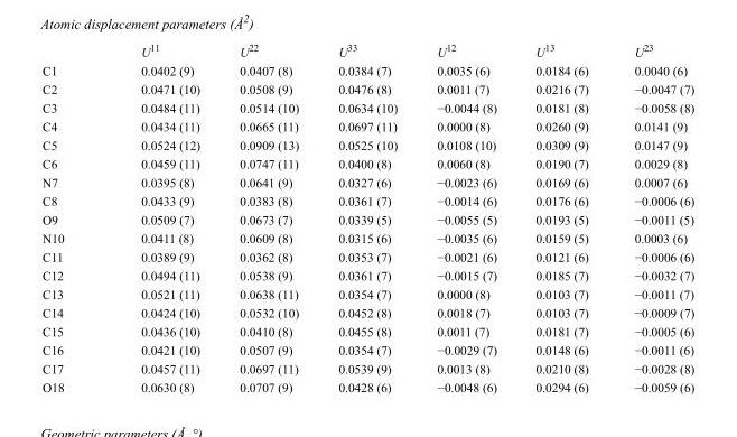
<table><thead><tr><td></td><td>U<sup>11</sup></td><td>U<sup>22</sup></td><td>U<sup>33</sup></td><td>U<sup>12</sup></td><td>U<sup>13</sup></td><td>U<sup>23</sup></td></tr></thead><tbody><tr><td>C1</td><td>0.0402 (9)</td><td>0.0407 (8)</td><td>0.0384 (7)</td><td>0.0035 (6)</td><td>0.0184 (6)</td><td>0.0040 (6)</td></tr><tr><td>C2</td><td>0.0471 (10)</td><td>0.0508 (9)</td><td>0.0476 (8)</td><td>0.0011 (7)</td><td>0.0216 (7)</td><td>−0.0047 (7)</td></tr><tr><td>C3</td><td>0.0484 (11)</td><td>0.0514 (10)</td><td>0.0634 (10)</td><td>−0.0044 (8)</td><td>0.0181 (8)</td><td>−0.0058 (8)</td></tr><tr><td>C4</td><td>0.0434 (11)</td><td>0.0665 (11)</td><td>0.0697 (11)</td><td>0.0000 (8)</td><td>0.0260 (9)</td><td>0.0141 (9)</td></tr><tr><td>C5</td><td>0.0524 (12)</td><td>0.0909 (13)</td><td>0.0525 (10)</td><td>0.0108 (10)</td><td>0.0309 (9)</td><td>0.0147 (9)</td></tr><tr><td>C6</td><td>0.0459 (11)</td><td>0.0747 (11)</td><td>0.0400 (8)</td><td>0.0060 (8)</td><td>0.0190 (7)</td><td>0.0029 (8)</td></tr><tr><td>N7</td><td>0.0395 (8)</td><td>0.0641 (9)</td><td>0.0327 (6)</td><td>−0.0023 (6)</td><td>0.0169 (6)</td><td>0.0007 (6)</td></tr><tr><td>C8</td><td>0.0433 (9)</td><td>0.0383 (8)</td><td>0.0361 (7)</td><td>−0.0014 (6)</td><td>0.0176 (6)</td><td>−0.0006 (6)</td></tr><tr><td>O9</td><td>0.0509 (7)</td><td>0.0673 (7)</td><td>0.0339 (5)</td><td>−0.0055 (5)</td><td>0.0193 (5)</td><td>−0.0011 (5)</td></tr><tr><td>N10</td><td>0.0411 (8)</td><td>0.0609 (8)</td><td>0.0315 (6)</td><td>−0.0035 (6)</td><td>0.0159 (5)</td><td>0.0003 (6)</td></tr><tr><td>C11</td><td>0.0389 (9)</td><td>0.0362 (8)</td><td>0.0353 (7)</td><td>−0.0021 (6)</td><td>0.0121 (6)</td><td>−0.0006 (6)</td></tr><tr><td>C12</td><td>0.0494 (11)</td><td>0.0538 (9)</td><td>0.0361 (7)</td><td>−0.0015 (7)</td><td>0.0185 (7)</td><td>−0.0032 (7)</td></tr><tr><td>C13</td><td>0.0521 (11)</td><td>0.0638 (11)</td><td>0.0354 (7)</td><td>0.0000 (8)</td><td>0.0103 (7)</td><td>−0.0011 (7)</td></tr><tr><td>C14</td><td>0.0424 (10)</td><td>0.0532 (10)</td><td>0.0452 (8)</td><td>0.0018 (7)</td><td>0.0103 (7)</td><td>−0.0009 (7)</td></tr><tr><td>C15</td><td>0.0436 (10)</td><td>0.0410 (8)</td><td>0.0455 (8)</td><td>0.0011 (7)</td><td>0.0181 (7)</td><td>−0.0005 (6)</td></tr><tr><td>C16</td><td>0.0421 (10)</td><td>0.0507 (9)</td><td>0.0354 (7)</td><td>−0.0029 (7)</td><td>0.0148 (6)</td><td>−0.0011 (6)</td></tr><tr><td>C17</td><td>0.0457 (11)</td><td>0.0697 (11)</td><td>0.0539 (9)</td><td>0.0013 (8)</td><td>0.0210 (8)</td><td>−0.0028 (8)</td></tr><tr><td>O18</td><td>0.0630 (8)</td><td>0.0707 (9)</td><td>0.0428 (6)</td><td>−0.0048 (6)</td><td>0.0294 (6)</td><td>−0.0059 (6)</td></tr></tbody></table>